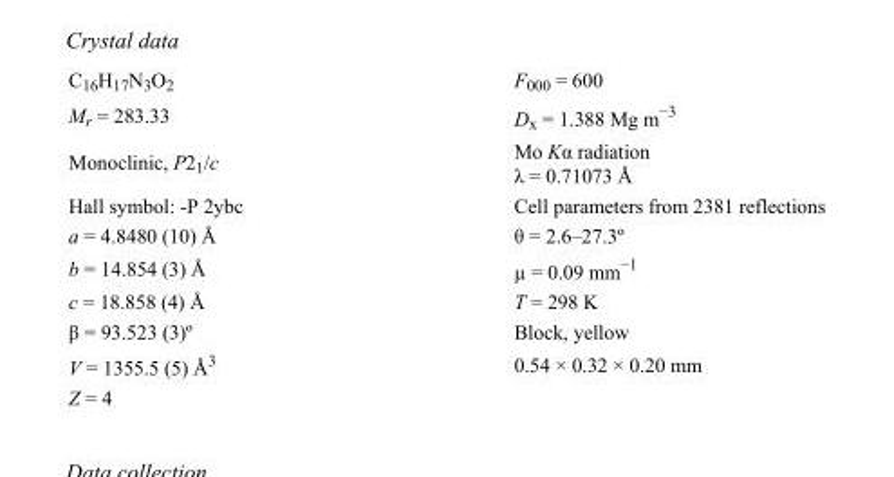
<table><tbody><tr><td>C<sub>16</sub>H<sub>17</sub>N<sub>3</sub>O<sub>2</sub></td><td>F000 = 600</td></tr><tr><td>M<sub>r</sub> = 283.33</td><td>D<sub>x</sub> = 1.388 Mg m<sup>−3</sup></td></tr><tr><td>Monoclinic, P2<sub>1</sub>/c</td><td>Mo Kα radiation λ = 0.71073 Å</td></tr><tr><td>Hall symbol: -P 2ybc</td><td>Cell parameters from 2381 reflections</td></tr><tr><td>a = 4.8480 (10) Å</td><td>θ = 2.6–27.3º</td></tr><tr><td>b = 14.854 (3) Å</td><td>µ = 0.09 mm<sup>−1</sup></td></tr><tr><td>c = 18.858 (4) Å</td><td>T = 298 K</td></tr><tr><td>β = 93.523 (3)º</td><td>Block, yellow</td></tr><tr><td>V = 1355.5 (5) Å<sup>3</sup></td><td>0.54 × 0.32 × 0.20 mm</td></tr><tr><td>Z = 4</td><td></td></tr></tbody></table>